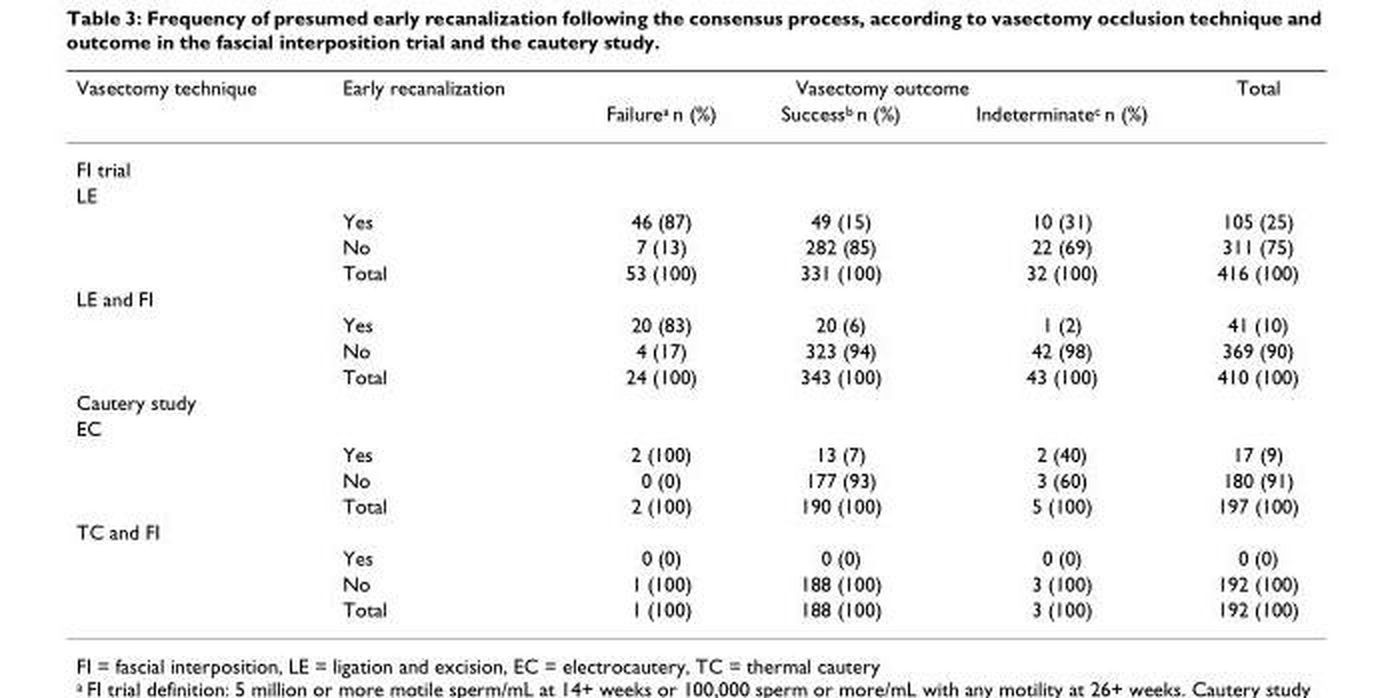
<table><thead><tr><td rowspan="2">Vasectomy technique</td><td rowspan="2">Early recanalization</td><td colspan="3">Vasectomy outcome</td><td rowspan="2">Total</td></tr><tr><td>Failure<sup>a</sup> n (%)</td><td>Success<sup>b</sup> n (%)</td><td>Indeterminate<sup>c</sup> n (%)</td></tr></thead><tbody><tr><td colspan="6">FI trial</td></tr><tr><td colspan="6">LE</td></tr><tr><td></td><td>Yes</td><td>46 (87)</td><td>49 (15)</td><td>10 (31)</td><td>105 (25)</td></tr><tr><td></td><td>No</td><td>7 (13)</td><td>282 (85)</td><td>22 (69)</td><td>311 (75)</td></tr><tr><td></td><td>Total</td><td>53 (100)</td><td>331 (100)</td><td>32 (100)</td><td>416 (100)</td></tr><tr><td colspan="6">LE and FI</td></tr><tr><td></td><td>Yes</td><td>20 (83)</td><td>20 (6)</td><td>1 (2)</td><td>41 (10)</td></tr><tr><td></td><td>No</td><td>4 (17)</td><td>323 (94)</td><td>42 (98)</td><td>369 (90)</td></tr><tr><td></td><td>Total</td><td>24 (100)</td><td>343 (100)</td><td>43 (100)</td><td>410 (100)</td></tr><tr><td colspan="6">Cautery study</td></tr><tr><td colspan="6">EC</td></tr><tr><td></td><td>Yes</td><td>2 (100)</td><td>13 (7)</td><td>2 (40)</td><td>17 (9)</td></tr><tr><td></td><td>No</td><td>0 (0)</td><td>177 (93)</td><td>3 (60)</td><td>180 (91)</td></tr><tr><td></td><td>Total</td><td>2 (100)</td><td>190 (100)</td><td>5 (100)</td><td>197 (100)</td></tr><tr><td colspan="6">TC and FI</td></tr><tr><td></td><td>Yes</td><td>0 (0)</td><td>0 (0)</td><td>0 (0)</td><td>0 (0)</td></tr><tr><td></td><td>No</td><td>1 (100)</td><td>188 (100)</td><td>3 (100)</td><td>192 (100)</td></tr><tr><td></td><td>Total</td><td>1 (100)</td><td>188 (100)</td><td>3 (100)</td><td>192 (100)</td></tr></tbody></table>